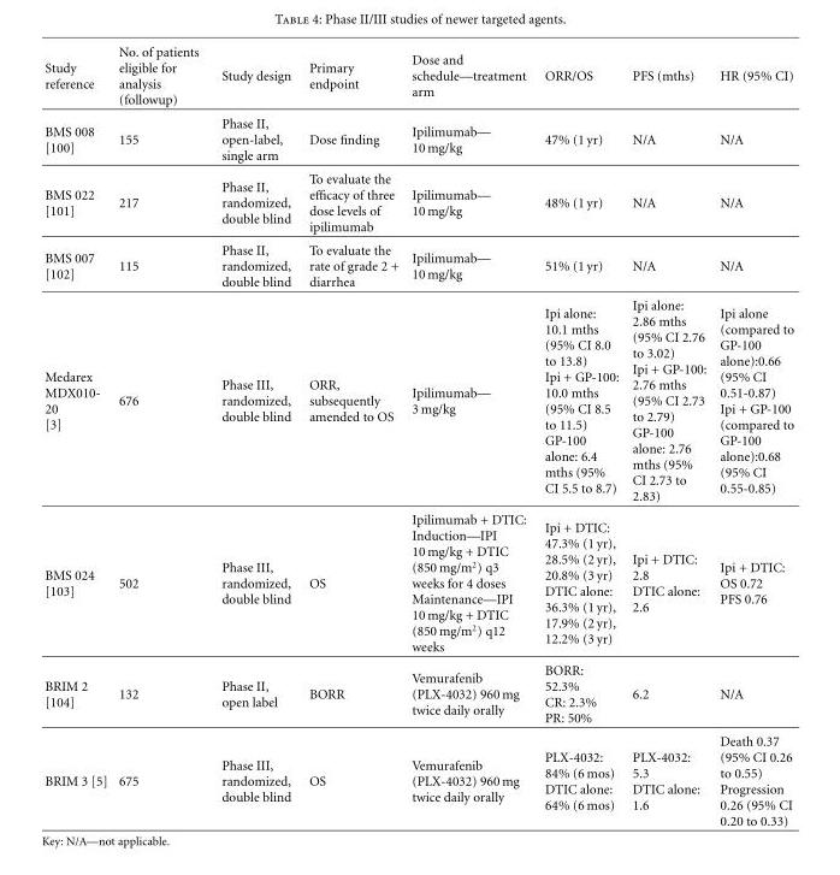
<table><thead><tr><td>Study reference</td><td>No. of patients eligible for analysis (followup)</td><td>Study design</td><td>Primary endpoint</td><td>Dose and schedule—treatment arm</td><td>ORR/OS</td><td>PFS (mths)</td><td>HR (95% CI)</td></tr></thead><tbody><tr><td>BMS 008 [100]</td><td>155</td><td>Phase II, open-label, single arm</td><td>Dose finding</td><td>Ipilimumab— 10 mg/kg</td><td>47% (1 yr)</td><td>N/A</td><td>N/A</td></tr><tr><td>BMS 022 [101]</td><td>217</td><td>Phase II, randomized, double blind</td><td>To evaluate the efficacy of three dose levels of ipilimumab</td><td>Ipilimumab— 10 mg/kg</td><td>48% (1 yr)</td><td>N/A</td><td>N/A</td></tr><tr><td>BMS 007 [102]</td><td>115</td><td>Phase II, randomized, double blind</td><td>To evaluate the rate of grade 2 + diarrhea</td><td>Ipilimumab— 10 mg/kg</td><td>51% (1 yr)</td><td>N/A</td><td>N/A</td></tr><tr><td>Medarex MDX010- 20 [3]</td><td>676</td><td>Phase III, randomized, double blind</td><td>ORR, subsequently amended to OS</td><td>Ipilimumab— 3 mg/kg</td><td>Ipi alone: 10.1 mths (95% CI 8.0 to 13.8) Ipi + GP-100: 10.0 mths (95% CI 8.5 to 11.5) GP-100 alone: 6.4 mths (95% CI 5.5 to 8.7)</td><td>Ipi alone: 2.86 mths (95% CI 2.76 to 3.02) Ipi + GP-100: 2.76 mths (95% CI 2.73 to 2.79) GP-100 alone: 2.76 mths (95% CI 2.73 to 2.83)</td><td>Ipi alone (compared to GP-100 alone):0.66 (95% CI 0.51-0.87) Ipi + GP-100 (compared to GP-100 alone):0.68 (95% CI 0.55-0.85)</td></tr><tr><td>BMS 024 [103]</td><td>502</td><td>Phase III, randomized, double blind</td><td>OS</td><td>Ipilimumab + DTIC: Induction—IPI 10 mg/kg + DTIC (850 mg/m<sup>2</sup>) q3 weeks for 4 doses Maintenance—IPI 10 mg/kg + DTIC (850 mg/m<sup>2</sup>) q12 weeks</td><td>Ipi + DTIC: 47.3% (1 yr), 28.5% (2 yr), 20.8% (3 yr) DTIC alone: 36.3% (1 yr), 17.9% (2 yr), 12.2% (3 yr)</td><td>Ipi + DTIC: 2.8 DTIC alone: 2.6</td><td>Ipi + DTIC: OS 0.72 PFS 0.76</td></tr><tr><td>BRIM 2 [104]</td><td>132</td><td>Phase II, open label</td><td>BORR</td><td>Vemurafenib (PLX-4032) 960 mg twice daily orally</td><td>BORR: 52.3% CR: 2.3% PR: 50%</td><td>6.2</td><td>N/A</td></tr><tr><td>BRIM 3 [5]</td><td>675</td><td>Phase III, randomized, double blind</td><td>OS</td><td>Vemurafenib (PLX-4032) 960 mg twice daily orally</td><td>PLX-4032: 84% (6 mos) DTIC alone: 64% (6 mos)</td><td>PLX-4032: 5.3 DTIC alone: 1.6</td><td>Death 0.37 (95% CI 0.26 to 0.55) Progression 0.26 (95% CI 0.20 to 0.33)</td></tr></tbody></table>